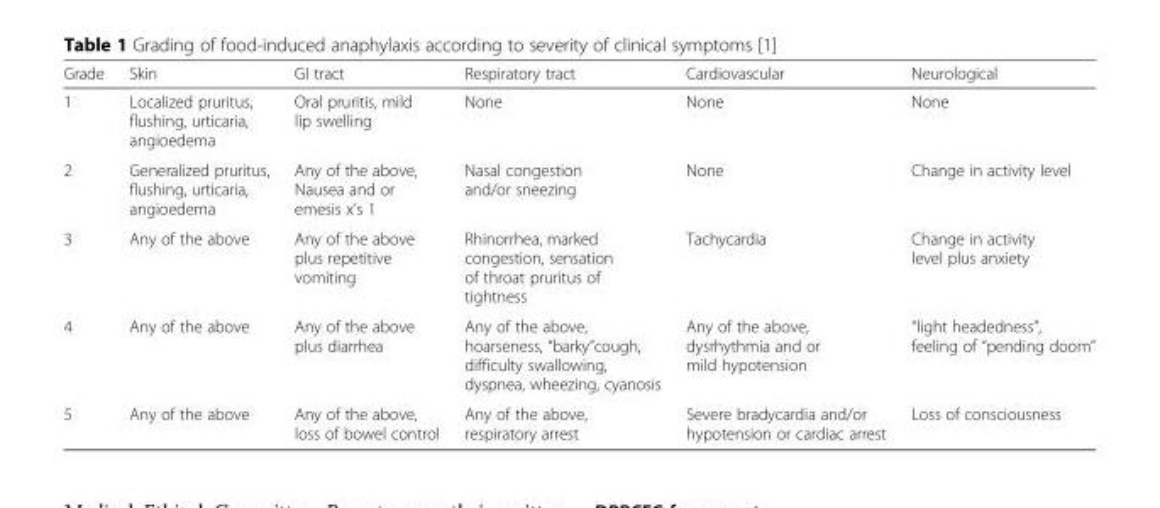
<table><thead><tr><td>Grade</td><td>Skin</td><td>GI tract</td><td>Respiratory tract</td><td>Cardiovascular</td><td>Neurological</td></tr></thead><tbody><tr><td>1</td><td>Localized pruritus, flushing, urticaria, angioedema</td><td>Oral pruritis, mild lip swelling</td><td>None</td><td>None</td><td>None</td></tr><tr><td>2</td><td>Generalized pruritus, flushing, urticaria, angioedema</td><td>Any of the above, Nausea and or emesis x’s 1</td><td>Nasal congestion and/or sneezing</td><td>None</td><td>Change in activity level</td></tr><tr><td>3</td><td>Any of the above</td><td>Any of the above plus repetitive vomiting</td><td>Rhinorrhea, marked congestion, sensation of throat pruritus of tightness</td><td>Tachycardia</td><td>Change in activity level plus anxiety</td></tr><tr><td>4</td><td>Any of the above</td><td>Any of the above plus diarrhea</td><td>Any of the above, hoarseness, “barky”cough, difficulty swallowing, dyspnea, wheezing, cyanosis</td><td>Any of the above, dysrhythmia and or mild hypotension</td><td>“light headedness”, feeling of “pending doom”</td></tr><tr><td>5</td><td>Any of the above</td><td>Any of the above, loss of bowel control</td><td>Any of the above, respiratory arrest</td><td>Severe bradycardia and/or hypotension or cardiac arrest</td><td>Loss of consciousness</td></tr></tbody></table>